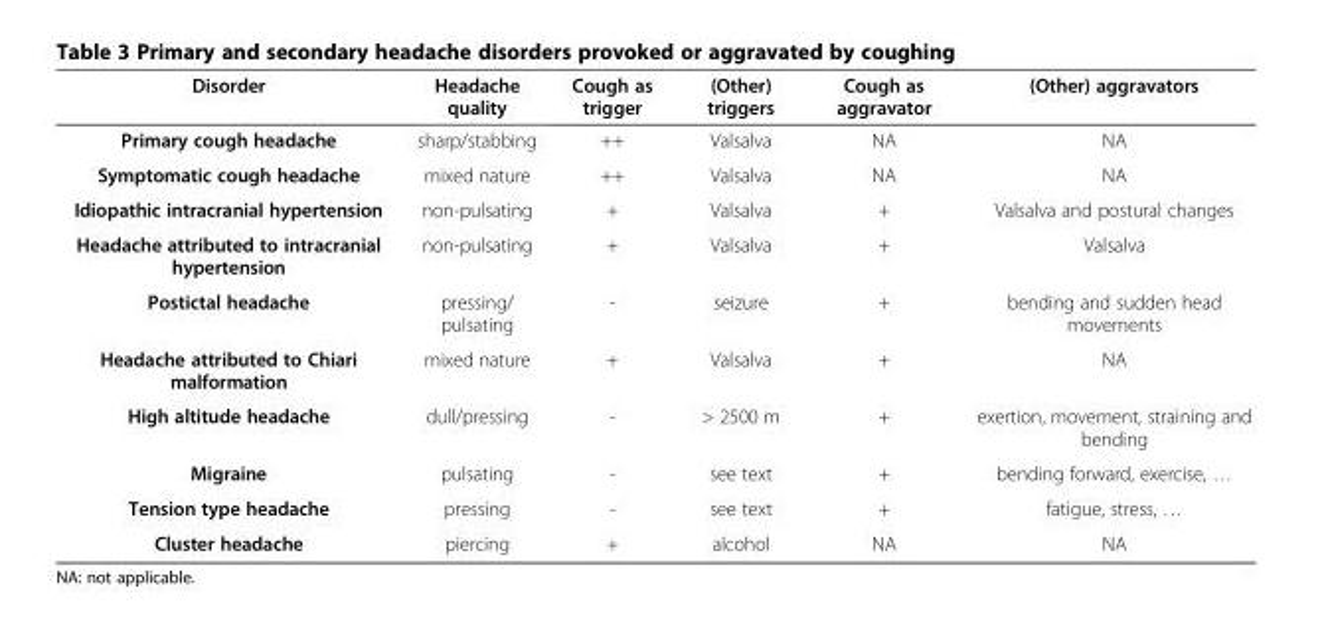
<table><thead><tr><td>Disorder</td><td>Headache quality</td><td>Cough as trigger</td><td>(Other) triggers</td><td>Cough as aggravator</td><td>(Other) aggravators</td></tr></thead><tbody><tr><td>Primary cough headache</td><td>sharp/stabbing</td><td>++</td><td>Valsalva</td><td>NA</td><td>NA</td></tr><tr><td>Symptomatic cough headache</td><td>mixed nature</td><td>++</td><td>Valsalva</td><td>NA</td><td>NA</td></tr><tr><td>Idiopathic intracranial hypertension</td><td>non-pulsating</td><td>+</td><td>Valsalva</td><td>+</td><td>Valsalva and postural changes</td></tr><tr><td>Headache attributed to intracranial hypertension</td><td>non-pulsating</td><td>+</td><td>Valsalva</td><td>+</td><td>Valsalva</td></tr><tr><td>Postictal headache</td><td>pressing/ pulsating</td><td>-</td><td>seizure</td><td>+</td><td>bending and sudden head movements</td></tr><tr><td>Headache attributed to Chiari malformation</td><td>mixed nature</td><td>+</td><td>Valsalva</td><td>+</td><td>NA</td></tr><tr><td>High altitude headache</td><td>dull/pressing</td><td>-</td><td>&gt; 2500 m</td><td>+</td><td>exertion, movement, straining and bending</td></tr><tr><td>Migraine</td><td>pulsating</td><td>-</td><td>see text</td><td>+</td><td>bending forward, exercise, …</td></tr><tr><td>Tension type headache</td><td>pressing</td><td>-</td><td>see text</td><td>+</td><td>fatigue, stress, …</td></tr><tr><td>Cluster headache</td><td>piercing</td><td>+</td><td>alcohol</td><td>NA</td><td>NA</td></tr></tbody></table>